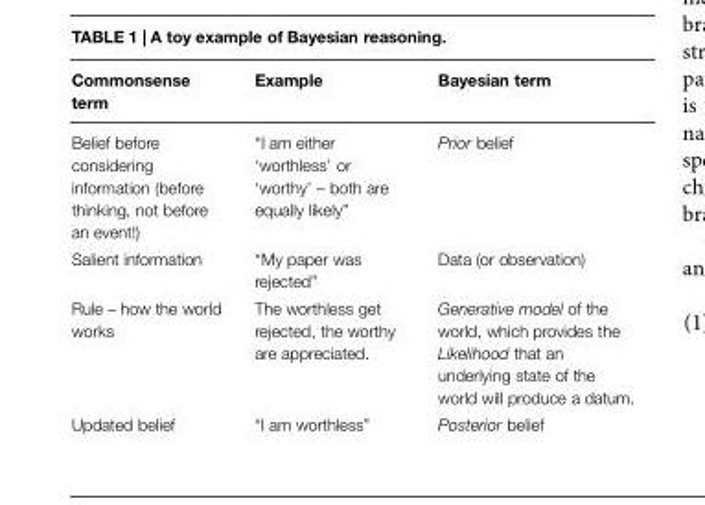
<table><thead><tr><td>Commonsense term</td><td>Example</td><td>Bayesian term</td></tr></thead><tbody><tr><td>Belief before considering information (before thinking, not before an event!)</td><td>“I am either ‘worthless’ or ‘worthy’ – both are equally likely”</td><td>Prior belief</td></tr><tr><td>Salient information</td><td>“My paper was rejected”</td><td>Data (or observation)</td></tr><tr><td>Rule – how the world works</td><td>The worthless get rejected, the worthy are appreciated.</td><td>Generative model of the world, which provides the Likelihood that an underlying state of the world will produce a datum.</td></tr><tr><td>Updated belief</td><td>“I am worthless”</td><td>Posterior belief</td></tr></tbody></table>